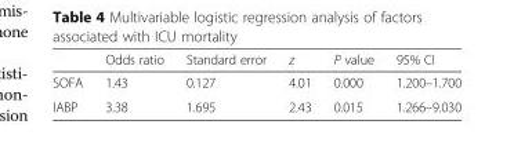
<table><thead><tr><td></td><td>Odds ratio</td><td>Standard error</td><td>z</td><td>P value</td><td>95% CI</td></tr></thead><tbody><tr><td>SOFA</td><td>1.43</td><td>0.127</td><td>4.01</td><td>0.000</td><td>1.200–1.700</td></tr><tr><td>IABP</td><td>3.38</td><td>1.695</td><td>2.43</td><td>0.015</td><td>1.266–9.030</td></tr></tbody></table>